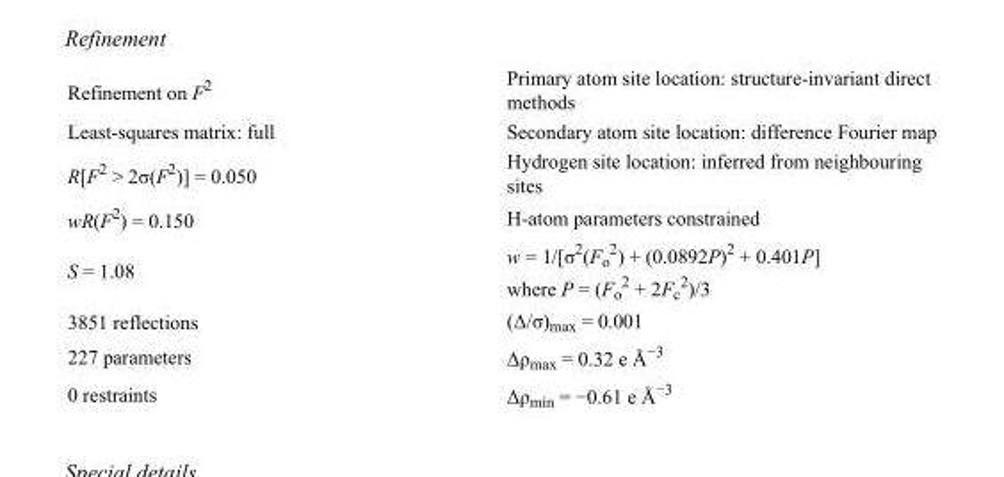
<table><tbody><tr><td>Refinement on F<sup>2</sup></td><td>Primary atom site location: structure-invariant direct methods</td></tr><tr><td>Least-squares matrix: full</td><td>Secondary atom site location: difference Fourier map</td></tr><tr><td>R[F<sup>2</sup> &gt; 2σ(F<sup>2</sup>)] = 0.050</td><td>Hydrogen site location: inferred from neighbouring sites</td></tr><tr><td>wR(F<sup>2</sup>) = 0.150</td><td>H-atom parameters constrained</td></tr><tr><td>S = 1.08</td><td>w = 1/[σ<sup>2</sup>(F<sub>o</sub> <sup>2</sup>) + (0.0892P)<sup>2</sup> + 0.401P] where P = (F<sub>o</sub> <sup>2</sup> + 2F<sub>c</sub> <sup>2</sup>)/3</td></tr><tr><td>3851 reflections</td><td>(Δ/σ)<sub>max</sub> = 0.001</td></tr><tr><td>227 parameters</td><td>Δρ<sub>max</sub> = 0.32 e Å<sup>−3</sup></td></tr><tr><td>0 restraints</td><td>Δρ<sub>min</sub> = −0.61 e Å<sup>−3</sup></td></tr></tbody></table>